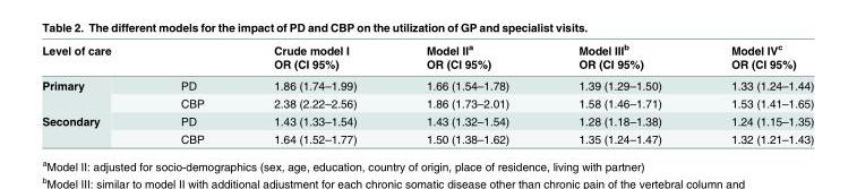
<table><thead><tr><td rowspan="2">Level of care</td><td rowspan="2"></td><td rowspan="2">Crude model I OR (CI 95%)</td><td rowspan="2">Model II<sup>a</sup> OR (CI 95%)</td><td rowspan="2">Model III<sup>b</sup> OR (CI 95%)</td><td rowspan="2">Model IV<sup>c</sup> OR (CI 95%)</td></tr><tr></tr></thead><tbody><tr><td rowspan="2">Primary</td><td>PD</td><td>1.86 (1.74–1.99)</td><td>1.66 (1.54–1.78)</td><td>1.39 (1.29–1.50)</td><td>1.33 (1.24–1.44)</td></tr><tr><td>CBP</td><td>2.38 (2.22–2.56)</td><td>1.86 (1.73–2.01)</td><td>1.58 (1.46–1.71)</td><td>1.53 (1.41–1.65)</td></tr><tr><td rowspan="2">Secondary</td><td>PD</td><td>1.43 (1.33–1.54)</td><td>1.43 (1.32–1.54)</td><td>1.28 (1.18–1.38)</td><td>1.24 (1.15–1.35)</td></tr><tr><td>CBP</td><td>1.64 (1.52–1.77)</td><td>1.50 (1.38–1.62)</td><td>1.35 (1.24–1.47)</td><td>1.32 (1.21–1.43)</td></tr></tbody></table>